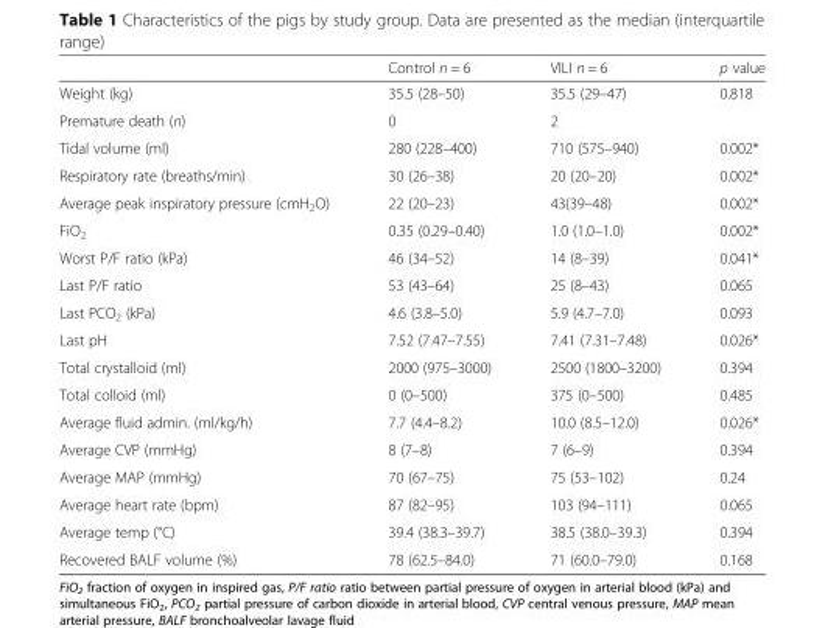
<table><thead><tr><td></td><td>Control n = 6</td><td>VILI n = 6</td><td>p value</td></tr></thead><tbody><tr><td>Weight (kg)</td><td>35.5 (28–50)</td><td>35.5 (29–47)</td><td>0.818</td></tr><tr><td>Premature death (n)</td><td>0</td><td>2</td><td></td></tr><tr><td>Tidal volume (ml)</td><td>280 (228–400)</td><td>710 (575–940)</td><td>0.002*</td></tr><tr><td>Respiratory rate (breaths/min)</td><td>30 (26–38)</td><td>20 (20–20)</td><td>0.002*</td></tr><tr><td>Average peak inspiratory pressure (cmH<sub>2</sub>O)</td><td>22 (20–23)</td><td>43(39–48)</td><td>0.002*</td></tr><tr><td>FiO<sub>2</sub></td><td>0.35 (0.29–0.40)</td><td>1.0 (1.0–1.0)</td><td>0.002*</td></tr><tr><td>Worst P/F ratio (kPa)</td><td>46 (34–52)</td><td>14 (8–39)</td><td>0.041*</td></tr><tr><td>Last P/F ratio</td><td>53 (43–64)</td><td>25 (8–43)</td><td>0.065</td></tr><tr><td>Last PCO<sub>2</sub> (kPa)</td><td>4.6 (3.8–5.0)</td><td>5.9 (4.7–7.0)</td><td>0.093</td></tr><tr><td>Last pH</td><td>7.52 (7.47–7.55)</td><td>7.41 (7.31–7.48)</td><td>0.026*</td></tr><tr><td>Total crystalloid (ml)</td><td>2000 (975–3000)</td><td>2500 (1800–3200)</td><td>0.394</td></tr><tr><td>Total colloid (ml)</td><td>0 (0–500)</td><td>375 (0–500)</td><td>0.485</td></tr><tr><td>Average fluid admin. (ml/kg/h)</td><td>7.7 (4.4–8.2)</td><td>10.0 (8.5–12.0)</td><td>0.026*</td></tr><tr><td>Average CVP (mmHg)</td><td>8 (7–8)</td><td>7 (6–9)</td><td>0.394</td></tr><tr><td>Average MAP (mmHg)</td><td>70 (67–75)</td><td>75 (53–102)</td><td>0.24</td></tr><tr><td>Average heart rate (bpm)</td><td>87 (82–95)</td><td>103 (94–111)</td><td>0.065</td></tr><tr><td>Average temp (°C)</td><td>39.4 (38.3–39.7)</td><td>38.5 (38.0–39.3)</td><td>0.394</td></tr><tr><td>Recovered BALF volume (%)</td><td>78 (62.5–84.0)</td><td>71 (60.0–79.0)</td><td>0.168</td></tr></tbody></table>